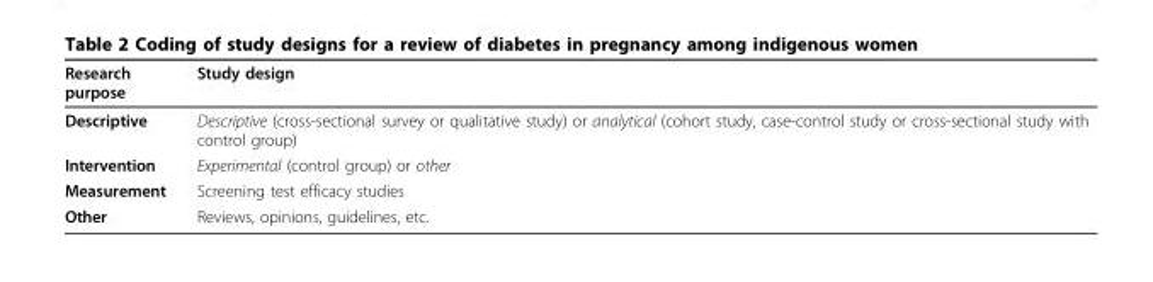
<table><thead><tr><td>Research purpose</td><td>Study design</td></tr></thead><tbody><tr><td>Descriptive</td><td>Descriptive (cross-sectional survey or qualitative study) or analytical (cohort study, case-control study or cross-sectional study with control group)</td></tr><tr><td>Intervention</td><td>Experimental (control group) or other</td></tr><tr><td>Measurement</td><td>Screening test efficacy studies</td></tr><tr><td>Other</td><td>Reviews, opinions, guidelines, etc.</td></tr></tbody></table>